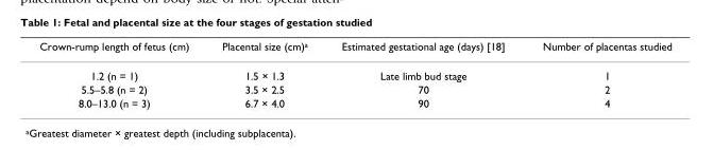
<table><thead><tr><td>Crown-rump length of fetus (cm)</td><td>Placental size (cm)<sup>a</sup></td><td>Estimated gestational age (days) [18]</td><td>Number of placentas studied</td></tr></thead><tbody><tr><td>1.2 (n = 1)</td><td>1.5 × 1.3</td><td>Late limb bud stage</td><td>1</td></tr><tr><td>5.5–5.8 (n = 2)</td><td>3.5 × 2.5</td><td>70</td><td>2</td></tr><tr><td>8.0–13.0 (n = 3)</td><td>6.7 × 4.0</td><td>90</td><td>4</td></tr></tbody></table>